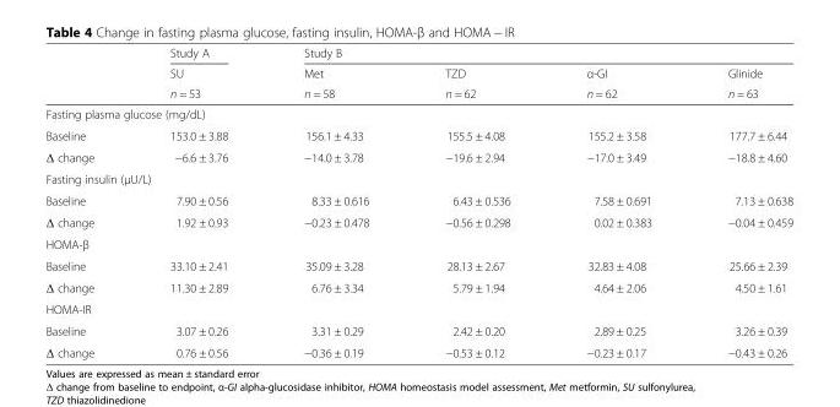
<table><thead><tr><td rowspan="3"></td><td rowspan="3">Study A SU n = 53</td><td colspan="4">Study B</td></tr><tr><td rowspan="2">Met n = 58</td><td rowspan="2">TZD n = 62</td><td rowspan="2">α-GI n = 62</td><td rowspan="2">Glinide n = 63</td></tr><tr></tr></thead><tbody><tr><td colspan="6">Fasting plasma glucose (mg/dL)</td></tr><tr><td>Baseline</td><td>153.0 ± 3.88</td><td>156.1 ± 4.33</td><td>155.5 ± 4.08</td><td>155.2 ± 3.58</td><td>177.7 ± 6.44</td></tr><tr><td>Δ change</td><td>−6.6 ± 3.76</td><td>−14.0 ± 3.78</td><td>−19.6 ± 2.94</td><td>−17.0 ± 3.49</td><td>−18.8 ± 4.60</td></tr><tr><td colspan="6">Fasting insulin (μU/L)</td></tr><tr><td>Baseline</td><td>7.90 ± 0.56</td><td>8.33 ± 0.616</td><td>6.43 ± 0.536</td><td>7.58 ± 0.691</td><td>7.13 ± 0.638</td></tr><tr><td>Δ change</td><td>1.92 ± 0.93</td><td>−0.23 ± 0.478</td><td>−0.56 ± 0.298</td><td>0.02 ± 0.383</td><td>−0.04 ± 0.459</td></tr><tr><td colspan="6">HOMA-β</td></tr><tr><td>Baseline</td><td>33.10 ± 2.41</td><td>35.09 ± 3.28</td><td>28.13 ± 2.67</td><td>32.83 ± 4.08</td><td>25.66 ± 2.39</td></tr><tr><td>Δ change</td><td>11.30 ± 2.89</td><td>6.76 ± 3.34</td><td>5.79 ± 1.94</td><td>4.64 ± 2.06</td><td>4.50 ± 1.61</td></tr><tr><td colspan="6">HOMA-IR</td></tr><tr><td>Baseline</td><td>3.07 ± 0.26</td><td>3.31 ± 0.29</td><td>2.42 ± 0.20</td><td>2.89 ± 0.25</td><td>3.26 ± 0.39</td></tr><tr><td>Δ change</td><td>0.76 ± 0.56</td><td>−0.36 ± 0.19</td><td>−0.53 ± 0.12</td><td>−0.23 ± 0.17</td><td>−0.43 ± 0.26</td></tr></tbody></table>